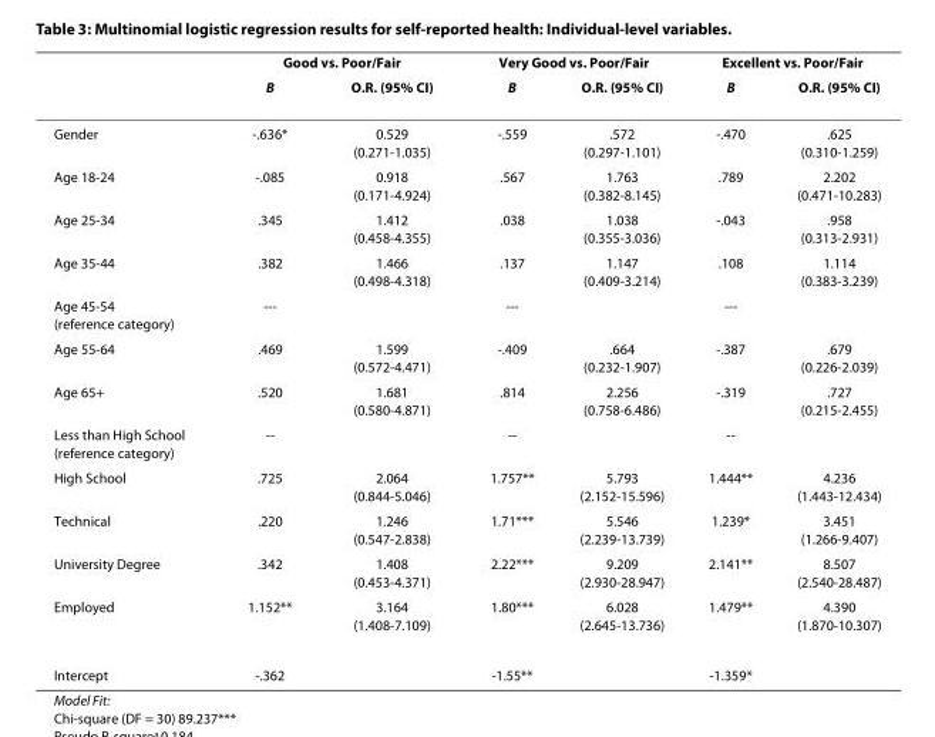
<table><thead><tr><td rowspan="2"></td><td colspan="2">Good vs. Poor/Fair</td><td colspan="2">Very Good vs. Poor/Fair</td><td colspan="2">Excellent vs. Poor/Fair</td></tr><tr><td>B</td><td>O.R. (95% CI)</td><td>B</td><td>O.R. (95% CI)</td><td>B</td><td>O.R. (95% CI)</td></tr></thead><tbody><tr><td>Gender</td><td>-.636*</td><td>0.529 (0.271-1.035)</td><td>-.559</td><td>.572 (0.297-1.101)</td><td>-.470</td><td>.625 (0.310-1.259)</td></tr><tr><td>Age 18-24</td><td>-.085</td><td>0.918 (0.171-4.924)</td><td>.567</td><td>1.763 (0.382-8.145)</td><td>.789</td><td>2.202 (0.471-10.283)</td></tr><tr><td>Age 25-34</td><td>.345</td><td>1.412 (0.458-4.355)</td><td>.038</td><td>1.038 (0.355-3.036)</td><td>-.043</td><td>.958 (0.313-2.931)</td></tr><tr><td>Age 35-44</td><td>.382</td><td>1.466 (0.498-4.318)</td><td>.137</td><td>1.147 (0.409-3.214)</td><td>.108</td><td>1.114 (0.383-3.239)</td></tr><tr><td>Age 45-54 (reference category)</td><td>---</td><td></td><td>---</td><td></td><td>---</td><td></td></tr><tr><td>Age 55-64</td><td>.469</td><td>1.599 (0.572-4.471)</td><td>-.409</td><td>.664 (0.232-1.907)</td><td>-.387</td><td>.679 (0.226-2.039)</td></tr><tr><td>Age 65+</td><td>.520</td><td>1.681 (0.580-4.871)</td><td>.814</td><td>2.256 (0.758-6.486)</td><td>-.319</td><td>.727 (0.215-2.455)</td></tr><tr><td>Less than High School (reference category)</td><td>--</td><td></td><td>--</td><td></td><td>--</td><td></td></tr><tr><td>High School</td><td>.725</td><td>2.064 (0.844-5.046)</td><td>1.757**</td><td>5.793 (2.152-15.596)</td><td>1.444**</td><td>4.236 (1.443-12.434)</td></tr><tr><td>Technical</td><td>.220</td><td>1.246 (0.547-2.838)</td><td>1.71***</td><td>5.546 (2.239-13.739)</td><td>1.239*</td><td>3.451 (1.266-9.407)</td></tr><tr><td>University Degree</td><td>.342</td><td>1.408 (0.453-4.371)</td><td>2.22***</td><td>9.209 (2.930-28.947)</td><td>2.141**</td><td>8.507 (2.540-28.487)</td></tr><tr><td>Employed</td><td>1.152**</td><td>3.164 (1.408-7.109)</td><td>1.80***</td><td>6.028 (2.645-13.736)</td><td>1.479**</td><td>4.390 (1.870-10.307)</td></tr><tr><td>Intercept</td><td>-.362</td><td></td><td>-1.55**</td><td></td><td>-1.359*</td><td></td></tr></tbody></table>